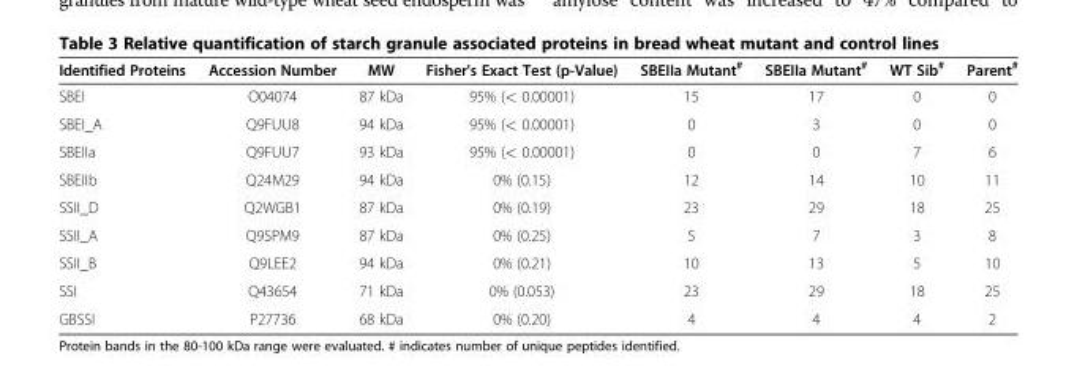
<table><thead><tr><td>Identified Proteins</td><td>Accession Number</td><td>MW</td><td>Fisher&#x27;s Exact Test (p-Value)</td><td>SBEIIa Mutant<sup>#</sup></td><td>SBEIIa Mutant<sup>#</sup></td><td>WT Sib<sup>#</sup></td><td>Parent<sup>#</sup></td></tr></thead><tbody><tr><td>SBEI</td><td>O04074</td><td>87 kDa</td><td>95% (&lt; 0.00001)</td><td>15</td><td>17</td><td>0</td><td>0</td></tr><tr><td>SBEI_A</td><td>Q9FUU8</td><td>94 kDa</td><td>95% (&lt; 0.00001)</td><td>0</td><td>3</td><td>0</td><td>0</td></tr><tr><td>SBEIIa</td><td>Q9FUU7</td><td>93 kDa</td><td>95% (&lt; 0.00001)</td><td>0</td><td>0</td><td>7</td><td>6</td></tr><tr><td>SBEIIb</td><td>Q24M29</td><td>94 kDa</td><td>0% (0.15)</td><td>12</td><td>14</td><td>10</td><td>11</td></tr><tr><td>SSII_D</td><td>Q2WGB1</td><td>87 kDa</td><td>0% (0.19)</td><td>23</td><td>29</td><td>18</td><td>25</td></tr><tr><td>SSII_A</td><td>Q9SPM9</td><td>87 kDa</td><td>0% (0.25)</td><td>5</td><td>7</td><td>3</td><td>8</td></tr><tr><td>SSII_B</td><td>Q9LEE2</td><td>94 kDa</td><td>0% (0.21)</td><td>10</td><td>13</td><td>5</td><td>10</td></tr><tr><td>SSI</td><td>Q43654</td><td>71 kDa</td><td>0% (0.053)</td><td>23</td><td>29</td><td>18</td><td>25</td></tr><tr><td>GBSSI</td><td>P27736</td><td>68 kDa</td><td>0% (0.20)</td><td>4</td><td>4</td><td>4</td><td>2</td></tr></tbody></table>